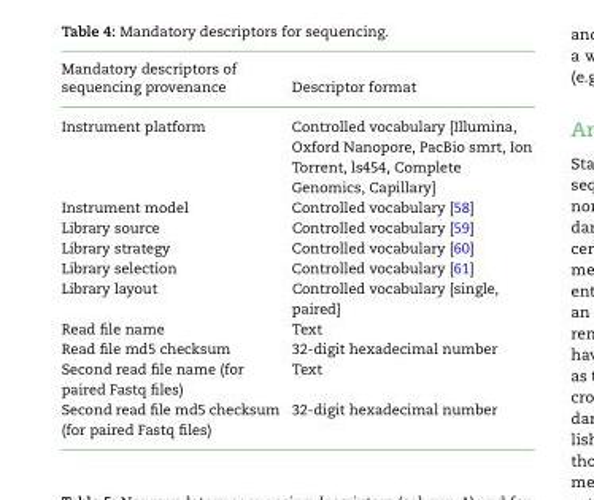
<table><thead><tr><td>Mandatory descriptors of sequencing provenance</td><td>Descriptor format</td></tr></thead><tbody><tr><td>Instrument platform</td><td>Controlled vocabulary [Illumina, Oxford Nanopore, PacBio smrt, Ion Torrent, ls454, Complete Genomics, Capillary]</td></tr><tr><td>Instrument model</td><td>Controlled vocabulary [58]</td></tr><tr><td>Library source</td><td>Controlled vocabulary [59]</td></tr><tr><td>Library strategy</td><td>Controlled vocabulary [60]</td></tr><tr><td>Library selection</td><td>Controlled vocabulary [61]</td></tr><tr><td>Library layout</td><td>Controlled vocabulary [single, paired]</td></tr><tr><td>Read file name</td><td>Text</td></tr><tr><td>Read file md5 checksum</td><td>32-digit hexadecimal number</td></tr><tr><td>Second read file name (for paired Fastq files)</td><td>Text</td></tr><tr><td>Second read file md5 checksum (for paired Fastq files)</td><td>32-digit hexadecimal number</td></tr></tbody></table>